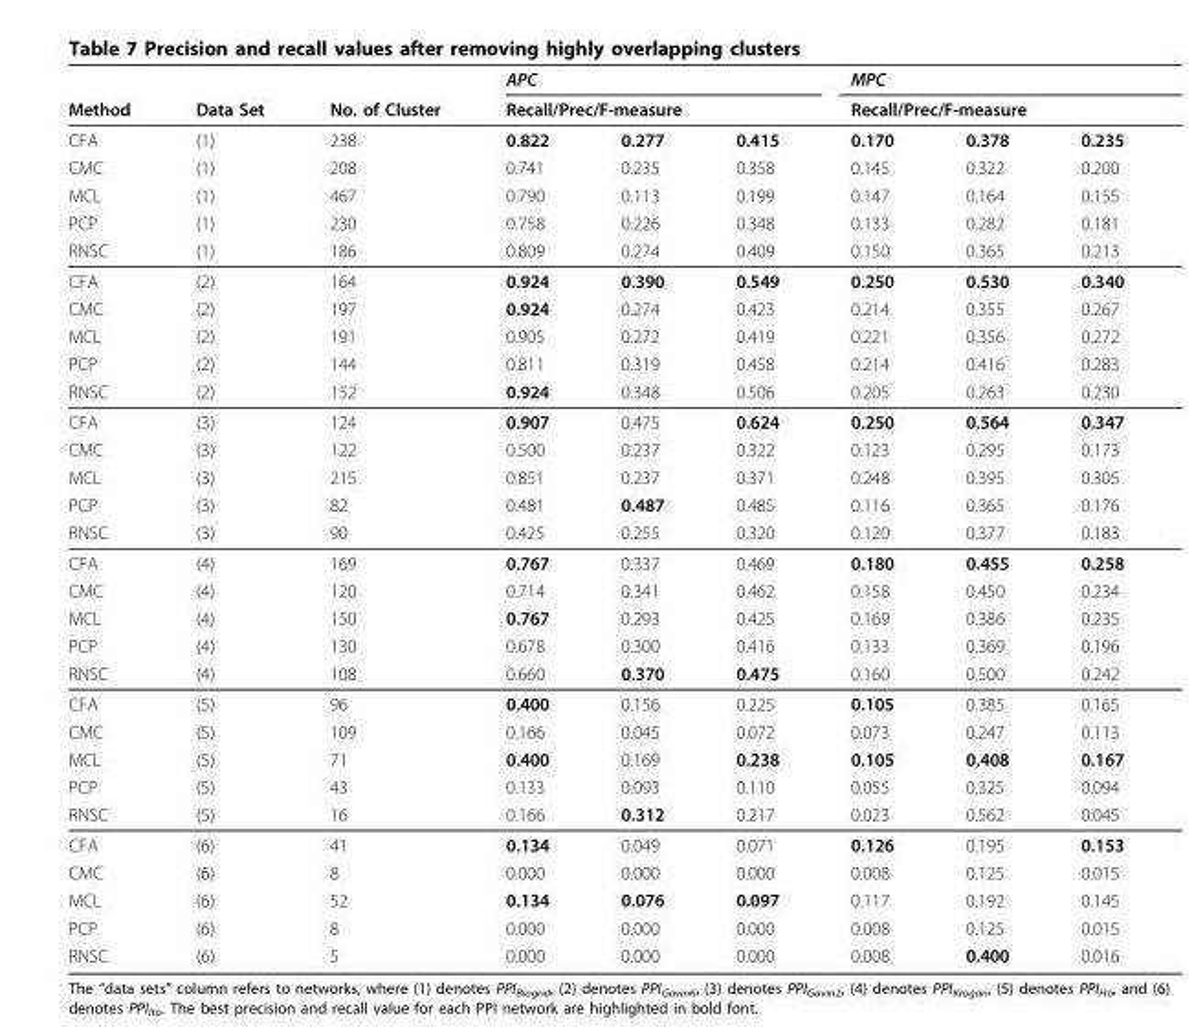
<table><thead><tr><td rowspan="3">Method CFA</td><td rowspan="3">Data Set (1)</td><td rowspan="3">No. of Cluster 238</td><td rowspan="2" colspan="3">APC Recall/Prec/F-measure</td><td rowspan="2" colspan="3">MPC Recall/Prec/F-measure</td></tr><tr></tr><tr><td>0.822</td><td>0.277</td><td>0.415</td><td>0.170</td><td>0.378</td><td>0.235</td></tr></thead><tbody><tr><td>CMC</td><td>(1)</td><td>208</td><td>0.741</td><td>0.235</td><td>0.358</td><td>0.145</td><td>0.322</td><td>0.200</td></tr><tr><td>MCL</td><td>(1)</td><td>467</td><td>0.790</td><td>0.113</td><td>0.199</td><td>0.147</td><td>0.164</td><td>0.155</td></tr><tr><td>PCP</td><td>(1)</td><td>230</td><td>0.758</td><td>0.226</td><td>0.348</td><td>0.133</td><td>0.282</td><td>0.181</td></tr><tr><td>RNSC</td><td>(1)</td><td>186</td><td>0.809</td><td>0.274</td><td>0.409</td><td>0.150</td><td>0.365</td><td>0.213</td></tr><tr><td>CFA</td><td>(2)</td><td>164</td><td>0.924</td><td>0.390</td><td>0.549</td><td>0.250</td><td>0.530</td><td>0.340</td></tr><tr><td>CMC</td><td>(2)</td><td>197</td><td>0.924</td><td>0.274</td><td>0.423</td><td>0.214</td><td>0.355</td><td>0.267</td></tr><tr><td>MCL</td><td>(2)</td><td>191</td><td>0.905</td><td>0.272</td><td>0.419</td><td>0.221</td><td>0.356</td><td>0.272</td></tr><tr><td>PCP</td><td>(2)</td><td>144</td><td>0.811</td><td>0.319</td><td>0.458</td><td>0.214</td><td>0.416</td><td>0.283</td></tr><tr><td>RNSC</td><td>(2)</td><td>152</td><td>0.924</td><td>0.348</td><td>0.506</td><td>0.205</td><td>0.263</td><td>0.230</td></tr><tr><td>CFA</td><td>(3)</td><td>124</td><td>0.907</td><td>0.475</td><td>0.624</td><td>0.250</td><td>0.564</td><td>0.347</td></tr><tr><td>CMC</td><td>(3)</td><td>122</td><td>0.500</td><td>0.237</td><td>0.322</td><td>0.123</td><td>0.295</td><td>0.173</td></tr><tr><td>MCL</td><td>(3)</td><td>215</td><td>0.851</td><td>0.237</td><td>0.371</td><td>0.248</td><td>0.395</td><td>0.305</td></tr><tr><td>PCP</td><td>(3)</td><td>82</td><td>0.481</td><td>0.487</td><td>0.485</td><td>0.116</td><td>0.365</td><td>0.176</td></tr><tr><td>RNSC</td><td>(3)</td><td>90</td><td>0.425</td><td>0.255</td><td>0.320</td><td>0.120</td><td>0.377</td><td>0.183</td></tr><tr><td>CFA</td><td>(4)</td><td>169</td><td>0.767</td><td>0.337</td><td>0.469</td><td>0.180</td><td>0.455</td><td>0.258</td></tr><tr><td>CMC</td><td>(4)</td><td>120</td><td>0.714</td><td>0.341</td><td>0.462</td><td>0.158</td><td>0.450</td><td>0.234</td></tr><tr><td>MCL</td><td>(4)</td><td>150</td><td>0.767</td><td>0.293</td><td>0.425</td><td>0.169</td><td>0.386</td><td>0.235</td></tr><tr><td>PCP</td><td>(4)</td><td>130</td><td>0.678</td><td>0.300</td><td>0.416</td><td>0.133</td><td>0.369</td><td>0.196</td></tr><tr><td>RNSC</td><td>(4)</td><td>108</td><td>0.660</td><td>0.370</td><td>0.475</td><td>0.160</td><td>0.500</td><td>0.242</td></tr><tr><td>CFA</td><td>(5)</td><td>96</td><td>0.400</td><td>0.156</td><td>0.225</td><td>0.105</td><td>0.385</td><td>0.165</td></tr><tr><td>CMC</td><td>(5)</td><td>109</td><td>0.166</td><td>0.045</td><td>0.072</td><td>0.073</td><td>0.247</td><td>0.113</td></tr><tr><td>MCL</td><td>(5)</td><td>71</td><td>0.400</td><td>0.169</td><td>0.238</td><td>0.105</td><td>0.408</td><td>0.167</td></tr><tr><td>PCP</td><td>(5)</td><td>43</td><td>0.133</td><td>0.093</td><td>0.110</td><td>0.055</td><td>0.325</td><td>0.094</td></tr><tr><td>RNSC</td><td>(5)</td><td>16</td><td>0.166</td><td>0.312</td><td>0.217</td><td>0.023</td><td>0.562</td><td>0.045</td></tr><tr><td>CFA</td><td>(6)</td><td>41</td><td>0.134</td><td>0.049</td><td>0.071</td><td>0.126</td><td>0.195</td><td>0.153</td></tr><tr><td>CMC</td><td>(6)</td><td>8</td><td>0.000</td><td>0.000</td><td>0.000</td><td>0.008</td><td>0.125</td><td>0.015</td></tr><tr><td>MCL</td><td>(6)</td><td>52</td><td>0.134</td><td>0.076</td><td>0.097</td><td>0.117</td><td>0.192</td><td>0.145</td></tr><tr><td>PCP</td><td>(6)</td><td>8</td><td>0.000</td><td>0.000</td><td>0.000</td><td>0.008</td><td>0.125</td><td>0.015</td></tr><tr><td>RNSC</td><td>(6)</td><td>5</td><td>0.000</td><td>0.000</td><td>0.000</td><td>0.008</td><td>0.400</td><td>0.016</td></tr></tbody></table>